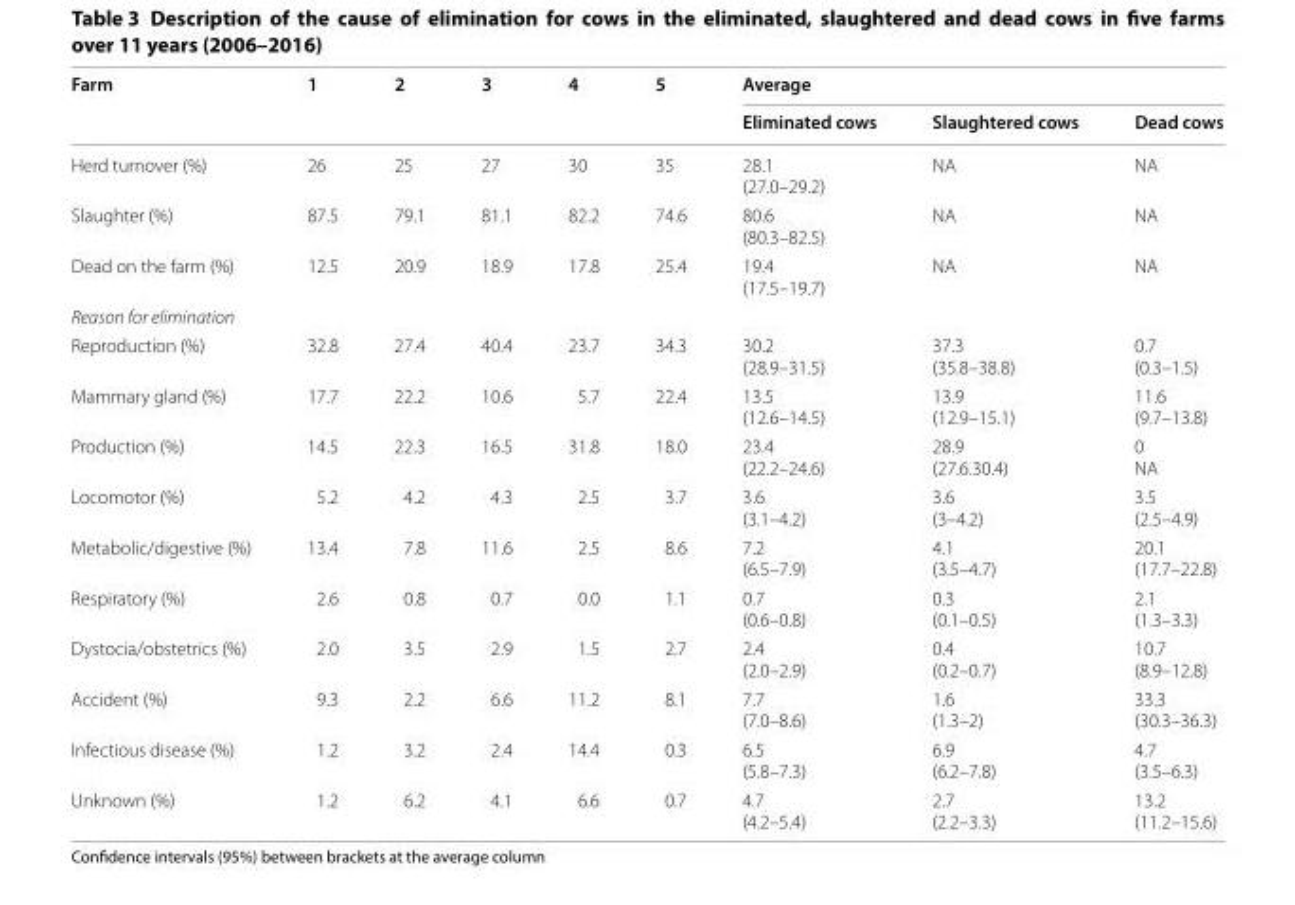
<table><thead><tr><td rowspan="2">Farm</td><td rowspan="2">1</td><td rowspan="2">2</td><td rowspan="2">3</td><td rowspan="2">4</td><td rowspan="2">5</td><td colspan="3">Average</td></tr><tr><td>Eliminated cows</td><td>Slaughtered cows</td><td>Dead cows</td></tr></thead><tbody><tr><td>Herd turnover (%)</td><td>26</td><td>25</td><td>27</td><td>30</td><td>35</td><td>28.1 (27.0–29.2)</td><td>NA</td><td>NA</td></tr><tr><td>Slaughter (%)</td><td>87.5</td><td>79.1</td><td>81.1</td><td>82.2</td><td>74.6</td><td>80.6 (80.3–82.5)</td><td>NA</td><td>NA</td></tr><tr><td>Dead on the farm (%)</td><td>12.5</td><td>20.9</td><td>18.9</td><td>17.8</td><td>25.4</td><td>19.4 (17.5–19.7)</td><td>NA</td><td>NA</td></tr><tr><td colspan="9">Reason for elimination</td></tr><tr><td>Reproduction (%)</td><td>32.8</td><td>27.4</td><td>40.4</td><td>23.7</td><td>34.3</td><td>30.2 (28.9–31.5)</td><td>37.3 (35.8–38.8)</td><td>0.7 (0.3–1.5)</td></tr><tr><td>Mammary gland (%)</td><td>17.7</td><td>22.2</td><td>10.6</td><td>5.7</td><td>22.4</td><td>13.5 (12.6–14.5)</td><td>13.9 (12.9–15.1)</td><td>11.6 (9.7–13.8)</td></tr><tr><td>Production (%)</td><td>14.5</td><td>22.3</td><td>16.5</td><td>31.8</td><td>18.0</td><td>23.4 (22.2–24.6)</td><td>28.9 (27.6.30.4)</td><td>0 NA</td></tr><tr><td>Locomotor (%)</td><td>5.2</td><td>4.2</td><td>4.3</td><td>2.5</td><td>3.7</td><td>3.6 (3.1–4.2)</td><td>3.6 (3–4.2)</td><td>3.5 (2.5–4.9)</td></tr><tr><td>Metabolic/digestive (%)</td><td>13.4</td><td>7.8</td><td>11.6</td><td>2.5</td><td>8.6</td><td>7.2 (6.5–7.9)</td><td>4.1 (3.5–4.7)</td><td>20.1 (17.7–22.8)</td></tr><tr><td>Respiratory (%)</td><td>2.6</td><td>0.8</td><td>0.7</td><td>0.0</td><td>1.1</td><td>0.7 (0.6–0.8)</td><td>0.3 (0.1–0.5)</td><td>2.1 (1.3–3.3)</td></tr><tr><td>Dystocia/obstetrics (%)</td><td>2.0</td><td>3.5</td><td>2.9</td><td>1.5</td><td>2.7</td><td>2.4 (2.0–2.9)</td><td>0.4 (0.2–0.7)</td><td>10.7 (8.9–12.8)</td></tr><tr><td>Accident (%)</td><td>9.3</td><td>2.2</td><td>6.6</td><td>11.2</td><td>8.1</td><td>7.7 (7.0–8.6)</td><td>1.6 (1.3–2)</td><td>33.3 (30.3–36.3)</td></tr><tr><td>Infectious disease (%)</td><td>1.2</td><td>3.2</td><td>2.4</td><td>14.4</td><td>0.3</td><td>6.5 (5.8–7.3)</td><td>6.9 (6.2–7.8)</td><td>4.7 (3.5–6.3)</td></tr><tr><td>Unknown (%)</td><td>1.2</td><td>6.2</td><td>4.1</td><td>6.6</td><td>0.7</td><td>4.7 (4.2–5.4)</td><td>2.7 (2.2–3.3)</td><td>13.2 (11.2–15.6)</td></tr></tbody></table>